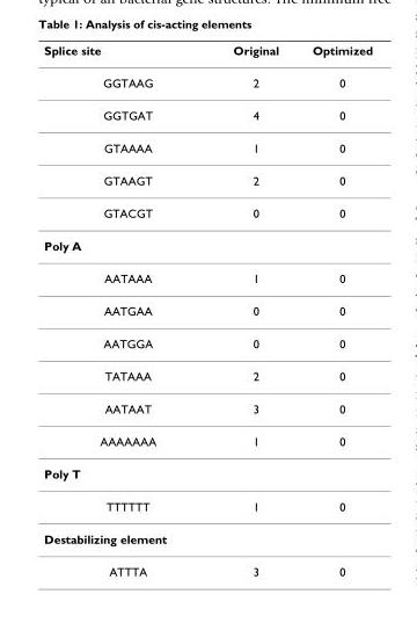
<table><thead><tr><td>Splice site</td><td>Original</td><td>Optimized</td></tr></thead><tbody><tr><td>GGTAAG</td><td>2</td><td>0</td></tr><tr><td>GGTGAT</td><td>4</td><td>0</td></tr><tr><td>GTAAAA</td><td>1</td><td>0</td></tr><tr><td>GTAAGT</td><td>2</td><td>0</td></tr><tr><td>GTACGT</td><td>0</td><td>0</td></tr><tr><td colspan="3">Poly A</td></tr><tr><td>AATAAA</td><td>1</td><td>0</td></tr><tr><td>AATGAA</td><td>0</td><td>0</td></tr><tr><td>AATGGA</td><td>0</td><td>0</td></tr><tr><td>TATAAA</td><td>2</td><td>0</td></tr><tr><td>AATAAT</td><td>3</td><td>0</td></tr><tr><td>AAAAAAA</td><td>1</td><td>0</td></tr><tr><td colspan="3">Poly T</td></tr><tr><td>TTTTTT</td><td>1</td><td>0</td></tr><tr><td colspan="3">Destabilizing element</td></tr><tr><td>ATTTA</td><td>3</td><td>0</td></tr></tbody></table>